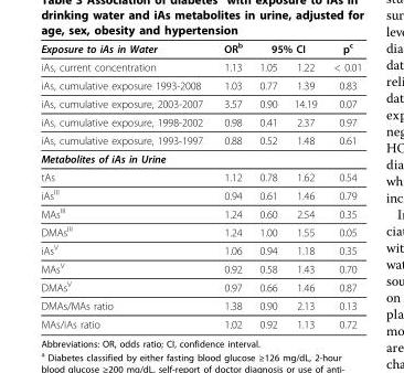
<table><thead><tr><td rowspan="2">Exposure to iAs in Water iAs, current concentration</td><td rowspan="2">ORb 1.13</td><td colspan="2">95% CI</td><td rowspan="2">pc &lt; 0.01</td></tr><tr><td>1.05</td><td>1.22</td></tr></thead><tbody><tr><td>iAs, cumulative exposure 1993-2008</td><td>1.03</td><td>0.77</td><td>1.39</td><td>0.83</td></tr><tr><td>iAs, cumulative exposure, 2003-2007</td><td>3.57</td><td>0.90</td><td>14.19</td><td>0.07</td></tr><tr><td>iAs, cumulative exposure, 1998-2002</td><td>0.98</td><td>0.41</td><td>2.37</td><td>0.97</td></tr><tr><td>iAs, cumulative exposure, 1993-1997</td><td>0.88</td><td>0.52</td><td>1.48</td><td>0.61</td></tr><tr><td colspan="5">Metabolites of iAs in Urine</td></tr><tr><td>tAs</td><td>1.12</td><td>0.78</td><td>1.62</td><td>0.54</td></tr><tr><td>iAs<sup>III</sup></td><td>0.94</td><td>0.61</td><td>1.46</td><td>0.79</td></tr><tr><td>MAs<sup>III</sup></td><td>1.24</td><td>0.60</td><td>2.54</td><td>0.35</td></tr><tr><td>DMAs<sup>III</sup></td><td>1.24</td><td>1.00</td><td>1.55</td><td>0.05</td></tr><tr><td>iAs<sup>V</sup></td><td>1.06</td><td>0.94</td><td>1.18</td><td>0.35</td></tr><tr><td>MAs<sup>V</sup></td><td>0.92</td><td>0.58</td><td>1.43</td><td>0.70</td></tr><tr><td>DMAs<sup>V</sup></td><td>0.97</td><td>0.66</td><td>1.46</td><td>0.87</td></tr><tr><td>DMAs/MAs ratio</td><td>1.38</td><td>0.90</td><td>2.13</td><td>0.13</td></tr><tr><td>MAs/iAs ratio</td><td>1.02</td><td>0.92</td><td>1.13</td><td>0.72</td></tr></tbody></table>